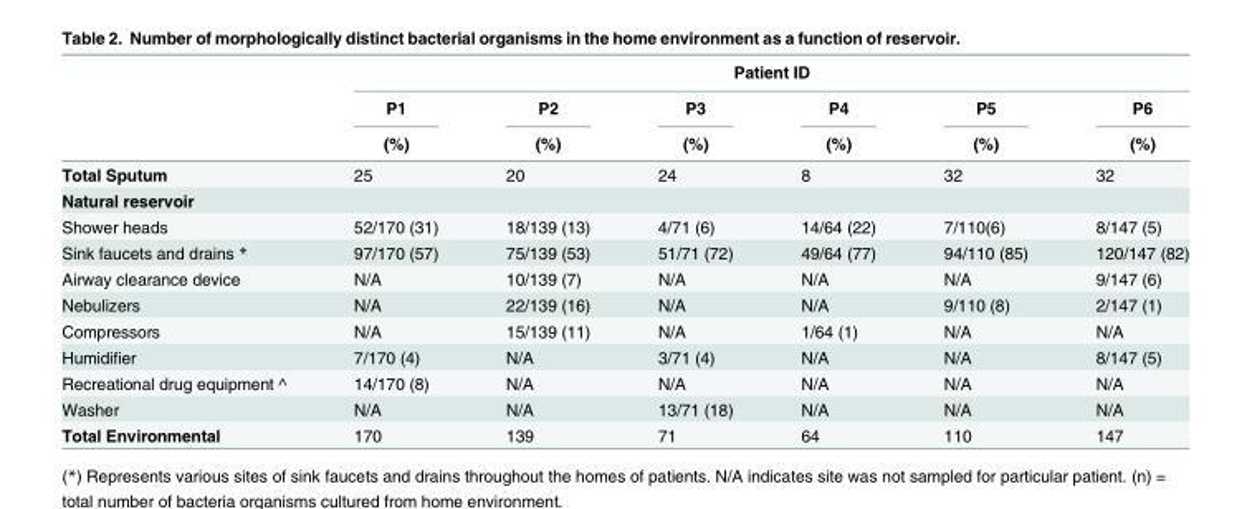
<table><thead><tr><td rowspan="3"></td><td colspan="6">Patient ID</td></tr><tr><td rowspan="2">P1 (%)</td><td rowspan="2">P2 (%)</td><td rowspan="2">P3 (%)</td><td rowspan="2">P4 (%)</td><td rowspan="2">P5 (%)</td><td rowspan="2">P6 (%)</td></tr><tr></tr></thead><tbody><tr><td>Total Sputum</td><td>25</td><td>20</td><td>24</td><td>8</td><td>32</td><td>32</td></tr><tr><td colspan="7">Natural reservoir</td></tr><tr><td>Shower heads</td><td>52/170 (31)</td><td>18/139 (13)</td><td>4/71 (6)</td><td>14/64 (22)</td><td>7/110(6)</td><td>8/147 (5)</td></tr><tr><td>Sink faucets and drains *</td><td>97/170 (57)</td><td>75/139 (53)</td><td>51/71 (72)</td><td>49/64 (77)</td><td>94/110 (85)</td><td>120/147 (82)</td></tr><tr><td>Airway clearance device</td><td>N/A</td><td>10/139 (7)</td><td>N/A</td><td>N/A</td><td>N/A</td><td>9/147 (6)</td></tr><tr><td>Nebulizers</td><td>N/A</td><td>22/139 (16)</td><td>N/A</td><td>N/A</td><td>9/110 (8)</td><td>2/147 (1)</td></tr><tr><td>Compressors</td><td>N/A</td><td>15/139 (11)</td><td>N/A</td><td>1/64 (1)</td><td>N/A</td><td>N/A</td></tr><tr><td>Humidifier</td><td>7/170 (4)</td><td>N/A</td><td>3/71 (4)</td><td>N/A</td><td>N/A</td><td>8/147 (5)</td></tr><tr><td>Recreational drug equipment ^</td><td>14/170 (8)</td><td>N/A</td><td>N/A</td><td>N/A</td><td>N/A</td><td>N/A</td></tr><tr><td>Washer</td><td>N/A</td><td>N/A</td><td>13/71 (18)</td><td>N/A</td><td>N/A</td><td>N/A</td></tr><tr><td>Total Environmental</td><td>170</td><td>139</td><td>71</td><td>64</td><td>110</td><td>147</td></tr></tbody></table>